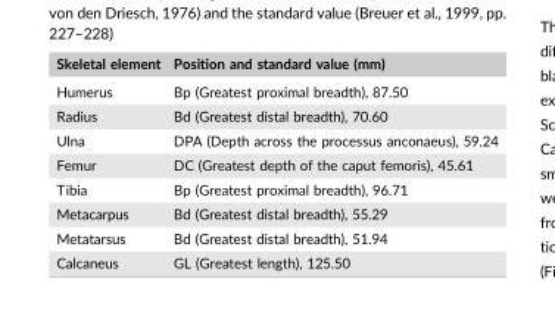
<table><thead><tr><td>Skeletal element</td><td>Position and standard value (mm)</td></tr></thead><tbody><tr><td>Humerus</td><td>Bp (Greatest proximal breadth), 87.50</td></tr><tr><td>Radius</td><td>Bd (Greatest distal breadth), 70.60</td></tr><tr><td>Ulna</td><td>DPA (Depth across the processus anconaeus), 59.24</td></tr><tr><td>Femur</td><td>DC (Greatest depth of the caput femoris), 45.61</td></tr><tr><td>Tibia</td><td>Bp (Greatest proximal breadth), 96.71</td></tr><tr><td>Metacarpus</td><td>Bd (Greatest distal breadth), 55.29</td></tr><tr><td>Metatarsus</td><td>Bd (Greatest distal breadth), 51.94</td></tr><tr><td>Calcaneus</td><td>GL (Greatest length), 125.50</td></tr></tbody></table>